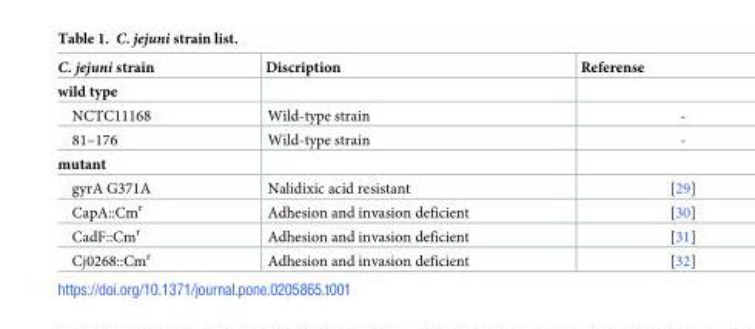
<table><thead><tr><td>C. jejuni strain</td><td>Discription</td><td>Referense</td></tr></thead><tbody><tr><td colspan="3">wild type</td></tr><tr><td>NCTC11168</td><td>Wild-type strain</td><td>-</td></tr><tr><td>81–176</td><td>Wild-type strain</td><td>-</td></tr><tr><td colspan="3">mutant</td></tr><tr><td>gyrA G371A</td><td>Nalidixic acid resistant</td><td>[29]</td></tr><tr><td>CapA::Cm<sup>r</sup></td><td>Adhesion and invasion deficient</td><td>[30]</td></tr><tr><td>CadF::Cm<sup>r</sup></td><td>Adhesion and invasion deficient</td><td>[31]</td></tr><tr><td>Cj0268::Cm<sup>r</sup></td><td>Adhesion and invasion deficient</td><td>[32]</td></tr></tbody></table>